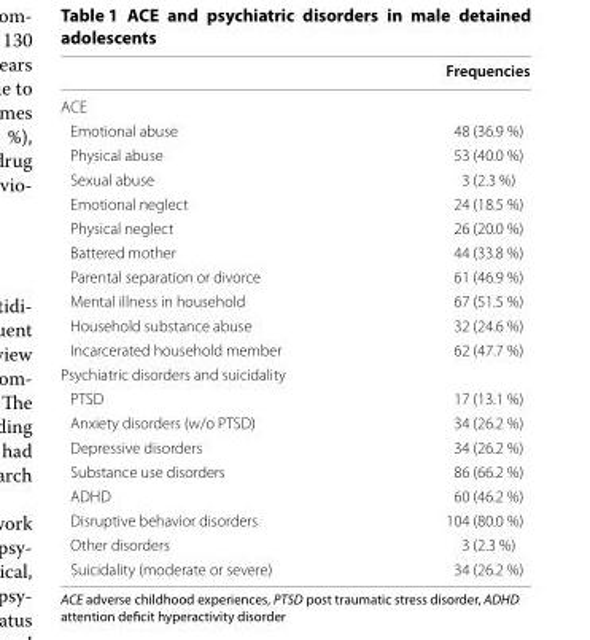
<table><thead><tr><td></td><td>Frequencies</td></tr></thead><tbody><tr><td colspan="2">ACE</td></tr><tr><td>Emotional abuse</td><td>48 (36.9 %)</td></tr><tr><td>Physical abuse</td><td>53 (40.0 %)</td></tr><tr><td>Sexual abuse</td><td>3 (2.3 %)</td></tr><tr><td>Emotional neglect</td><td>24 (18.5 %)</td></tr><tr><td>Physical neglect</td><td>26 (20.0 %)</td></tr><tr><td>Battered mother</td><td>44 (33.8 %)</td></tr><tr><td>Parental separation or divorce</td><td>61 (46.9 %)</td></tr><tr><td>Mental illness in household</td><td>67 (51.5 %)</td></tr><tr><td>Household substance abuse</td><td>32 (24.6 %)</td></tr><tr><td>Incarcerated household member</td><td>62 (47.7 %)</td></tr><tr><td colspan="2">Psychiatric disorders and suicidality</td></tr><tr><td>PTSD</td><td>17 (13.1 %)</td></tr><tr><td>Anxiety disorders (w/o PTSD)</td><td>34 (26.2 %)</td></tr><tr><td>Depressive disorders</td><td>34 (26.2 %)</td></tr><tr><td>Substance use disorders</td><td>86 (66.2 %)</td></tr><tr><td>ADHD</td><td>60 (46.2 %)</td></tr><tr><td>Disruptive behavior disorders</td><td>104 (80.0 %)</td></tr><tr><td>Other disorders</td><td>3 (2.3 %)</td></tr><tr><td>Suicidality (moderate or severe)</td><td>34 (26.2 %)</td></tr></tbody></table>